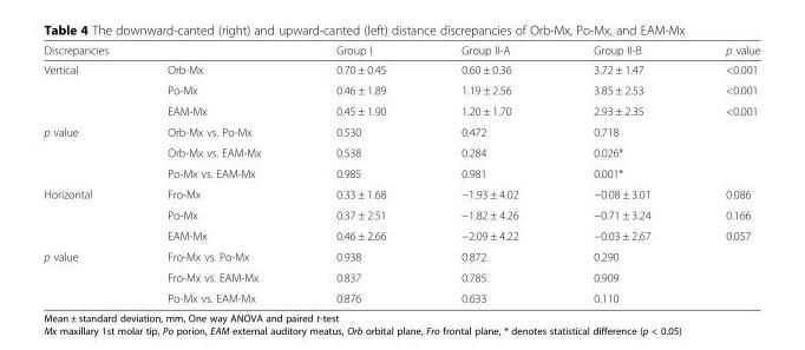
<table><thead><tr><td colspan="2">Discrepancies</td><td rowspan="2">Group I 0.70 ± 0.45</td><td rowspan="2">Group II-A 0.60 ± 0.36</td><td rowspan="2">Group II-B 3.72 ± 1.47</td><td rowspan="2">p value &lt;0.001</td></tr><tr><td>Vertical</td><td>Orb-Mx</td></tr></thead><tbody><tr><td></td><td>Po-Mx</td><td>0.46 ± 1.89</td><td>1.19 ± 2.56</td><td>3.85 ± 2.53</td><td>&lt;0.001</td></tr><tr><td></td><td>EAM-Mx</td><td>0.45 ± 1.90</td><td>1.20 ± 1.70</td><td>2.93 ± 2.35</td><td>&lt;0.001</td></tr><tr><td rowspan="3">p value</td><td>Orb-Mx vs. Po-Mx</td><td>0.530</td><td>0.472</td><td>0.718</td><td></td></tr><tr><td>Orb-Mx vs. EAM-Mx</td><td>0.538</td><td>0.284</td><td>0.026*</td><td></td></tr><tr><td>Po-Mx vs. EAM-Mx</td><td>0.985</td><td>0.981</td><td>0.001*</td><td></td></tr><tr><td rowspan="3">Horizontal</td><td>Fro-Mx</td><td>0.33 ± 1.68</td><td>−1.93 ± 4.02</td><td>−0.08 ± 3.01</td><td>0.086</td></tr><tr><td>Po-Mx</td><td>0.37 ± 2.51</td><td>−1.82 ± 4.26</td><td>−0.71 ± 3.24</td><td>0.166</td></tr><tr><td>EAM-Mx</td><td>0.46 ± 2.66</td><td>−2.09 ± 4.22</td><td>−0.03 ± 2.67</td><td>0.057</td></tr><tr><td rowspan="3">p value</td><td>Fro-Mx vs. Po-Mx</td><td>0.938</td><td>0.872</td><td>0.290</td><td></td></tr><tr><td>Fro-Mx vs. EAM-Mx</td><td>0.837</td><td>0.785</td><td>0.909</td><td></td></tr><tr><td>Po-Mx vs. EAM-Mx</td><td>0.876</td><td>0.633</td><td>0.110</td><td></td></tr></tbody></table>